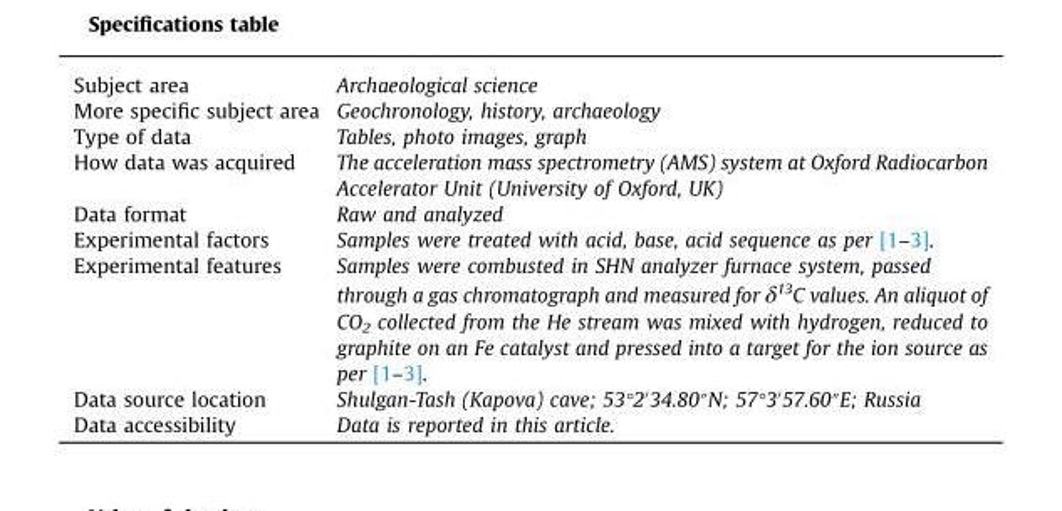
<table><tbody><tr><td>Subject area</td><td>Archaeological science</td></tr><tr><td>More specific subject area</td><td>Geochronology, history, archaeology</td></tr><tr><td>Type of data</td><td>Tables, photo images, graph</td></tr><tr><td>How data was acquired</td><td>The acceleration mass spectrometry (AMS) system at Oxford Radiocarbon Accelerator Unit (University of Oxford, UK)</td></tr><tr><td>Data format</td><td>Raw and analyzed</td></tr><tr><td>Experimental factors</td><td>Samples were treated with acid, base, acid sequence as per [1–3].</td></tr><tr><td>Experimental features</td><td>Samples were combusted in SHN analyzer furnace system, passed through a gas chromatograph and measured for δ13C values. An aliquot of CO2 collected from the He stream was mixed with hydrogen, reduced to graphite on an Fe catalyst and pressed into a target for the ion source as per [1–3].</td></tr><tr><td>Data source location</td><td>Shulgan-Tash (Kapova) cave; 53°2′34.80″N; 57°3′57.60″E; Russia</td></tr><tr><td>Data accessibility</td><td>Data is reported in this article.</td></tr></tbody></table>